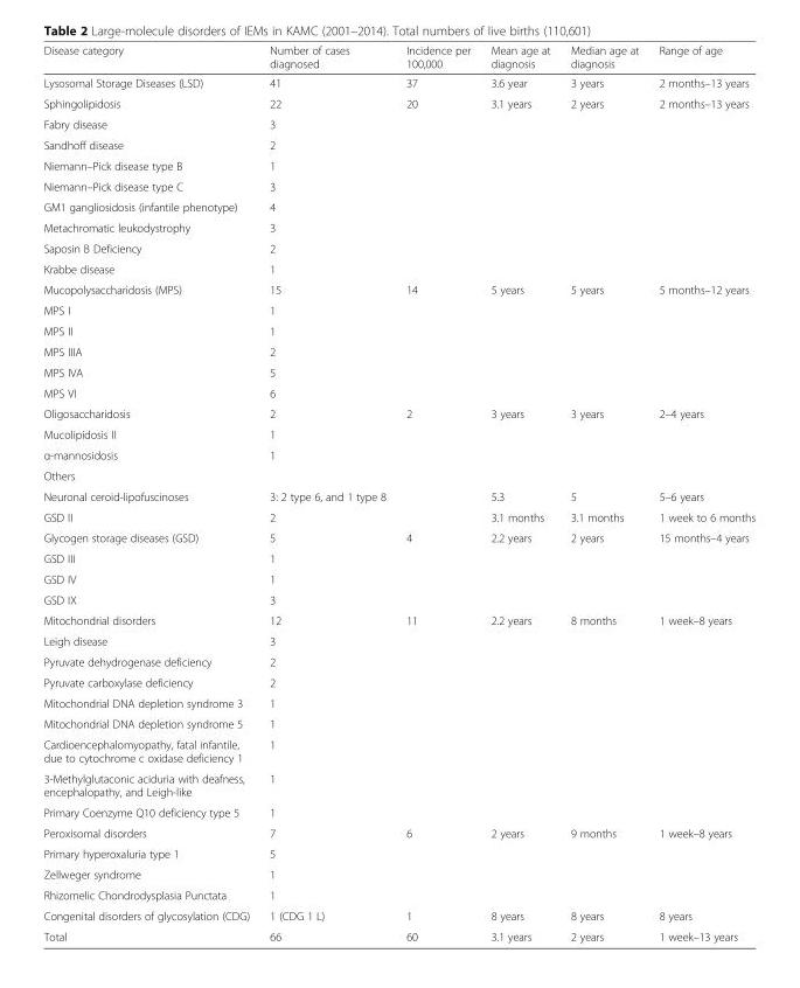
<table><thead><tr><td>Disease category</td><td>Number of cases diagnosed</td><td>Incidence per 100,000</td><td>Mean age at diagnosis</td><td>Median age at diagnosis</td><td>Range of age</td></tr></thead><tbody><tr><td>Lysosomal Storage Diseases (LSD)</td><td>41</td><td>37</td><td>3.6 year</td><td>3 years</td><td>2 months–13 years</td></tr><tr><td>Sphingolipidosis</td><td>22</td><td>20</td><td>3.1 years</td><td>2 years</td><td>2 months–13 years</td></tr><tr><td>Fabry disease</td><td>3</td><td></td><td></td><td></td><td></td></tr><tr><td>Sandhoff disease</td><td>2</td><td></td><td></td><td></td><td></td></tr><tr><td>Niemann–Pick disease type B</td><td>1</td><td></td><td></td><td></td><td></td></tr><tr><td>Niemann–Pick disease type C</td><td>3</td><td></td><td></td><td></td><td></td></tr><tr><td>GM1 gangliosidosis (infantile phenotype)</td><td>4</td><td></td><td></td><td></td><td></td></tr><tr><td>Metachromatic leukodystrophy</td><td>3</td><td></td><td></td><td></td><td></td></tr><tr><td>Saposin B Deficiency</td><td>2</td><td></td><td></td><td></td><td></td></tr><tr><td>Krabbe disease</td><td>1</td><td></td><td></td><td></td><td></td></tr><tr><td>Mucopolysaccharidosis (MPS)</td><td>15</td><td>14</td><td>5 years</td><td>5 years</td><td>5 months–12 years</td></tr><tr><td>MPS I</td><td>1</td><td></td><td></td><td></td><td></td></tr><tr><td>MPS II</td><td>1</td><td></td><td></td><td></td><td></td></tr><tr><td>MPS IIIA</td><td>2</td><td></td><td></td><td></td><td></td></tr><tr><td>MPS IVA</td><td>5</td><td></td><td></td><td></td><td></td></tr><tr><td>MPS VI</td><td>6</td><td></td><td></td><td></td><td></td></tr><tr><td>Oligosaccharidosis</td><td>2</td><td>2</td><td>3 years</td><td>3 years</td><td>2–4 years</td></tr><tr><td>Mucolipidosis II</td><td>1</td><td></td><td></td><td></td><td></td></tr><tr><td>α-mannosidosis</td><td>1</td><td></td><td></td><td></td><td></td></tr><tr><td colspan="6">Others</td></tr><tr><td>Neuronal ceroid-lipofuscinoses</td><td>3: 2 type 6, and 1 type 8</td><td></td><td>5.3</td><td>5</td><td>5–6 years</td></tr><tr><td>GSD II</td><td>2</td><td></td><td>3.1 months</td><td>3.1 months</td><td>1 week to 6 months</td></tr><tr><td>Glycogen storage diseases (GSD)</td><td>5</td><td>4</td><td>2.2 years</td><td>2 years</td><td>15 months–4 years</td></tr><tr><td>GSD III</td><td>1</td><td></td><td></td><td></td><td></td></tr><tr><td>GSD IV</td><td>1</td><td></td><td></td><td></td><td></td></tr><tr><td>GSD IX</td><td>3</td><td></td><td></td><td></td><td></td></tr><tr><td>Mitochondrial disorders</td><td>12</td><td>11</td><td>2.2 years</td><td>8 months</td><td>1 week–8 years</td></tr><tr><td>Leigh disease</td><td>3</td><td></td><td></td><td></td><td></td></tr><tr><td>Pyruvate dehydrogenase deficiency</td><td>2</td><td></td><td></td><td></td><td></td></tr><tr><td>Pyruvate carboxylase deficiency</td><td>2</td><td></td><td></td><td></td><td></td></tr><tr><td>Mitochondrial DNA depletion syndrome 3</td><td>1</td><td></td><td></td><td></td><td></td></tr><tr><td>Mitochondrial DNA depletion syndrome 5</td><td>1</td><td></td><td></td><td></td><td></td></tr><tr><td>Cardioencephalomyopathy, fatal infantile, due to cytochrome c oxidase deficiency 1</td><td>1</td><td></td><td></td><td></td><td></td></tr><tr><td>3-Methylglutaconic aciduria with deafness, encephalopathy, and Leigh-like</td><td>1</td><td></td><td></td><td></td><td></td></tr><tr><td>Primary Coenzyme Q10 deficiency type 5</td><td>1</td><td></td><td></td><td></td><td></td></tr><tr><td>Peroxisomal disorders</td><td>7</td><td>6</td><td>2 years</td><td>9 months</td><td>1 week–8 years</td></tr><tr><td>Primary hyperoxaluria type 1</td><td>5</td><td></td><td></td><td></td><td></td></tr><tr><td>Zellweger syndrome</td><td>1</td><td></td><td></td><td></td><td></td></tr><tr><td>Rhizomelic Chondrodysplasia Punctata</td><td>1</td><td></td><td></td><td></td><td></td></tr><tr><td>Congenital disorders of glycosylation (CDG)</td><td>1 (CDG 1 L)</td><td>1</td><td>8 years</td><td>8 years</td><td>8 years</td></tr><tr><td>Total</td><td>66</td><td>60</td><td>3.1 years</td><td>2 years</td><td>1 week–13 years</td></tr></tbody></table>